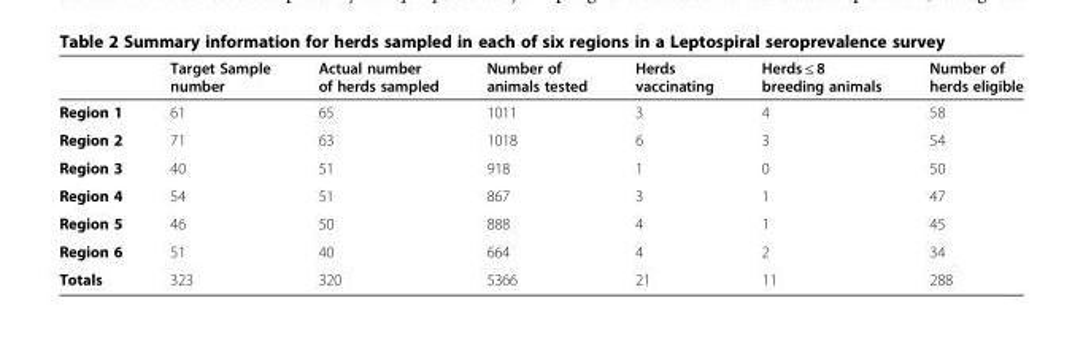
<table><thead><tr><td></td><td>Target Sample number</td><td>Actual number of herds sampled</td><td>Number of animals tested</td><td>Herds vaccinating</td><td>Herds ≤ 8 breeding animals</td><td>Number of herds eligible</td></tr></thead><tbody><tr><td>Region 1</td><td>61</td><td>65</td><td>1011</td><td>3</td><td>4</td><td>58</td></tr><tr><td>Region 2</td><td>71</td><td>63</td><td>1018</td><td>6</td><td>3</td><td>54</td></tr><tr><td>Region 3</td><td>40</td><td>51</td><td>918</td><td>1</td><td>0</td><td>50</td></tr><tr><td>Region 4</td><td>54</td><td>51</td><td>867</td><td>3</td><td>1</td><td>47</td></tr><tr><td>Region 5</td><td>46</td><td>50</td><td>888</td><td>4</td><td>1</td><td>45</td></tr><tr><td>Region 6</td><td>51</td><td>40</td><td>664</td><td>4</td><td>2</td><td>34</td></tr><tr><td>Totals</td><td>323</td><td>320</td><td>5366</td><td>21</td><td>11</td><td>288</td></tr></tbody></table>